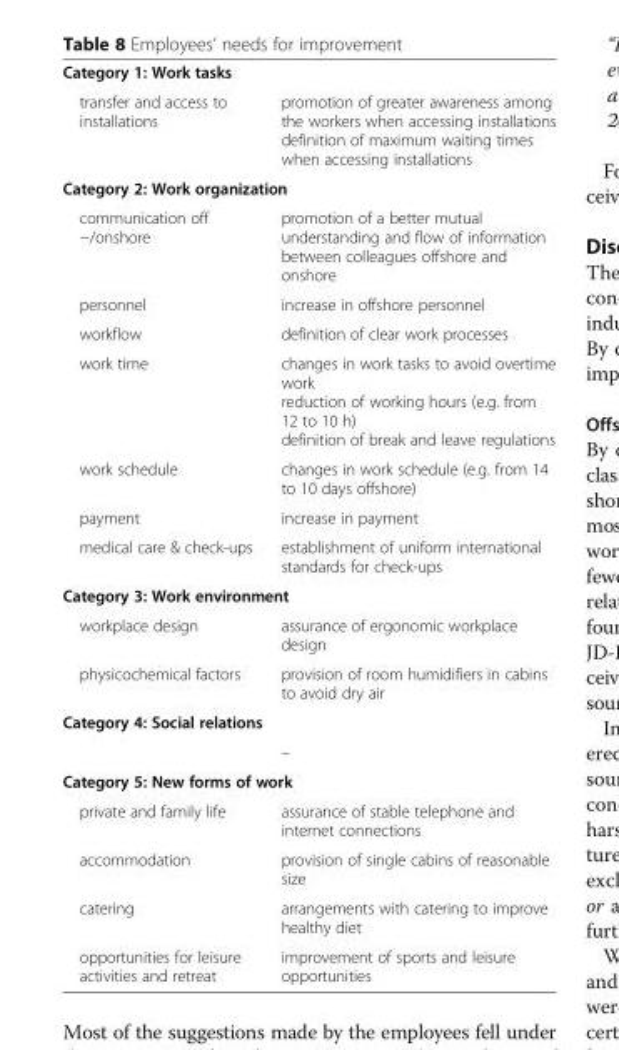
<table><tbody><tr><td colspan="2">Category 1: Work tasks</td></tr><tr><td>transfer and access to installations</td><td>promotion of greater awareness among the workers when accessing installations definition of maximum waiting times when accessing installations</td></tr><tr><td colspan="2">Category 2: Work organization</td></tr><tr><td>communication off −/onshore</td><td>promotion of a better mutual understanding and flow of information between colleagues offshore and onshore</td></tr><tr><td>personnel</td><td>increase in offshore personnel</td></tr><tr><td>workflow</td><td>definition of clear work processes</td></tr><tr><td>work time</td><td>changes in work tasks to avoid overtime work reduction of working hours (e.g. from 12 to 10 h) definition of break and leave regulations</td></tr><tr><td>work schedule</td><td>changes in work schedule (e.g. from 14 to 10 days offshore)</td></tr><tr><td>payment</td><td>increase in payment</td></tr><tr><td>medical care &amp; check-ups</td><td>establishment of uniform international standards for check-ups</td></tr><tr><td colspan="2">Category 3: Work environment</td></tr><tr><td>workplace design</td><td>assurance of ergonomic workplace design</td></tr><tr><td>physicochemical factors</td><td>provision of room humidifiers in cabins to avoid dry air</td></tr><tr><td colspan="2">Category 4: Social relations</td></tr><tr><td></td><td>–</td></tr><tr><td colspan="2">Category 5: New forms of work</td></tr><tr><td>private and family life</td><td>assurance of stable telephone and internet connections</td></tr><tr><td>accommodation</td><td>provision of single cabins of reasonable size</td></tr><tr><td>catering</td><td>arrangements with catering to improve healthy diet</td></tr><tr><td>opportunities for leisure activities and retreat</td><td>improvement of sports and leisure opportunities</td></tr></tbody></table>